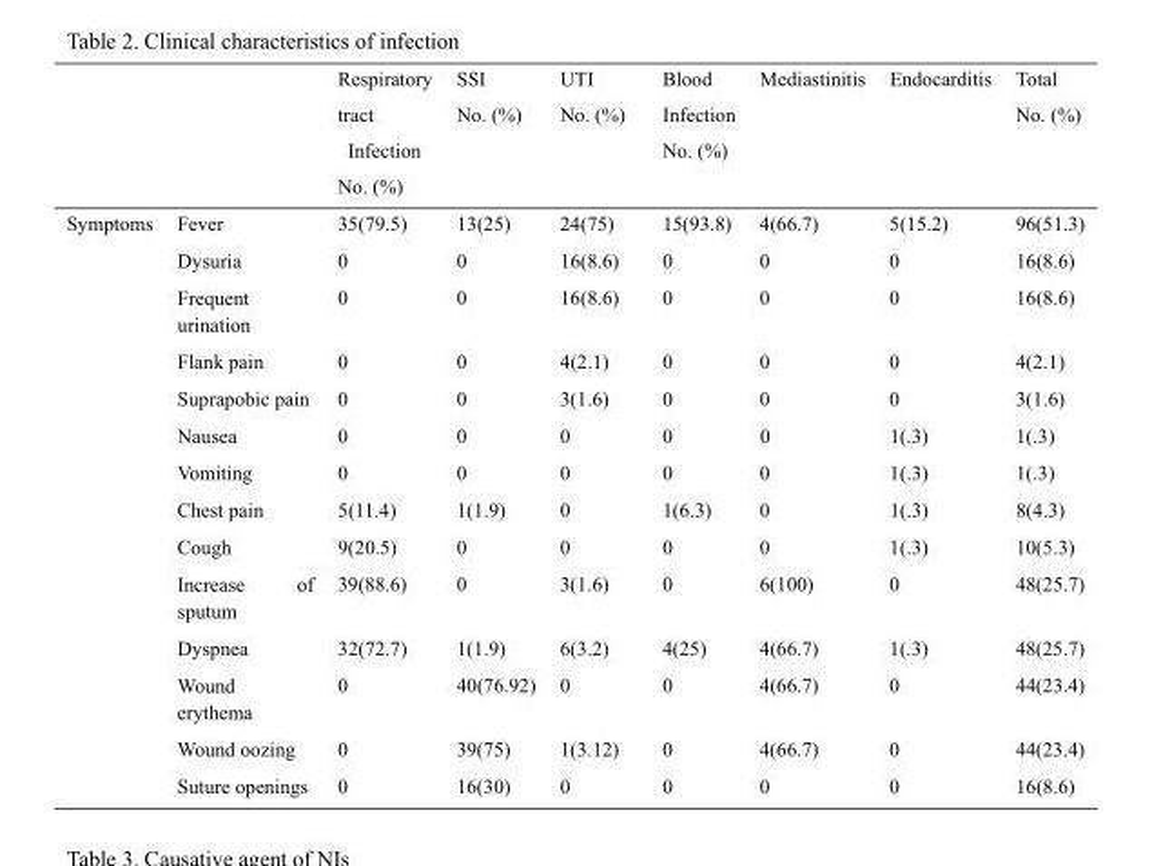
<table><thead><tr><td></td><td></td><td>Respiratory tract Infection No. (%)</td><td>SSI No. (%)</td><td>UTI No. (%)</td><td>Blood Infection No. (%)</td><td>Mediastinitis</td><td>Endocarditis</td><td>Total No. (%)</td></tr></thead><tbody><tr><td rowspan="14">Symptoms</td><td>Fever</td><td>35(79.5)</td><td>13(25)</td><td>24(75)</td><td>15(93.8)</td><td>4(66.7)</td><td>5(15.2)</td><td>96(51.3)</td></tr><tr><td>Dysuria</td><td>0</td><td>0</td><td>16(8.6)</td><td>0</td><td>0</td><td>0</td><td>16(8.6)</td></tr><tr><td>Frequent urination</td><td>0</td><td>0</td><td>16(8.6)</td><td>0</td><td>0</td><td>0</td><td>16(8.6)</td></tr><tr><td>Flank pain</td><td>0</td><td>0</td><td>4(2.1)</td><td>0</td><td>0</td><td>0</td><td>4(2.1)</td></tr><tr><td>Suprapobic pain</td><td>0</td><td>0</td><td>3(1.6)</td><td>0</td><td>0</td><td>0</td><td>3(1.6)</td></tr><tr><td>Nausea</td><td>0</td><td>0</td><td>0</td><td>0</td><td>0</td><td>1(.3)</td><td>1(.3)</td></tr><tr><td>Vomiting</td><td>0</td><td>0</td><td>0</td><td>0</td><td>0</td><td>1(.3)</td><td>1(.3)</td></tr><tr><td>Chest pain</td><td>5(11.4)</td><td>1(1.9)</td><td>0</td><td>1(6.3)</td><td>0</td><td>1(.3)</td><td>8(4.3)</td></tr><tr><td>Cough</td><td>9(20.5)</td><td>0</td><td>0</td><td>0</td><td>0</td><td>1(.3)</td><td>10(5.3)</td></tr><tr><td>Increase of sputum</td><td>39(88.6)</td><td>0</td><td>3(1.6)</td><td>0</td><td>6(100)</td><td>0</td><td>48(25.7)</td></tr><tr><td>Dyspnea</td><td>32(72.7)</td><td>1(1.9)</td><td>6(3.2)</td><td>4(25)</td><td>4(66.7)</td><td>1(.3)</td><td>48(25.7)</td></tr><tr><td>Wound erythema</td><td>0</td><td>40(76.92)</td><td>0</td><td>0</td><td>4(66.7)</td><td>0</td><td>44(23.4)</td></tr><tr><td>Wound oozing</td><td>0</td><td>39(75)</td><td>1(3.12)</td><td>0</td><td>4(66.7)</td><td>0</td><td>44(23.4)</td></tr><tr><td>Suture openings</td><td>0</td><td>16(30)</td><td>0</td><td>0</td><td>0</td><td>0</td><td>16(8.6)</td></tr></tbody></table>